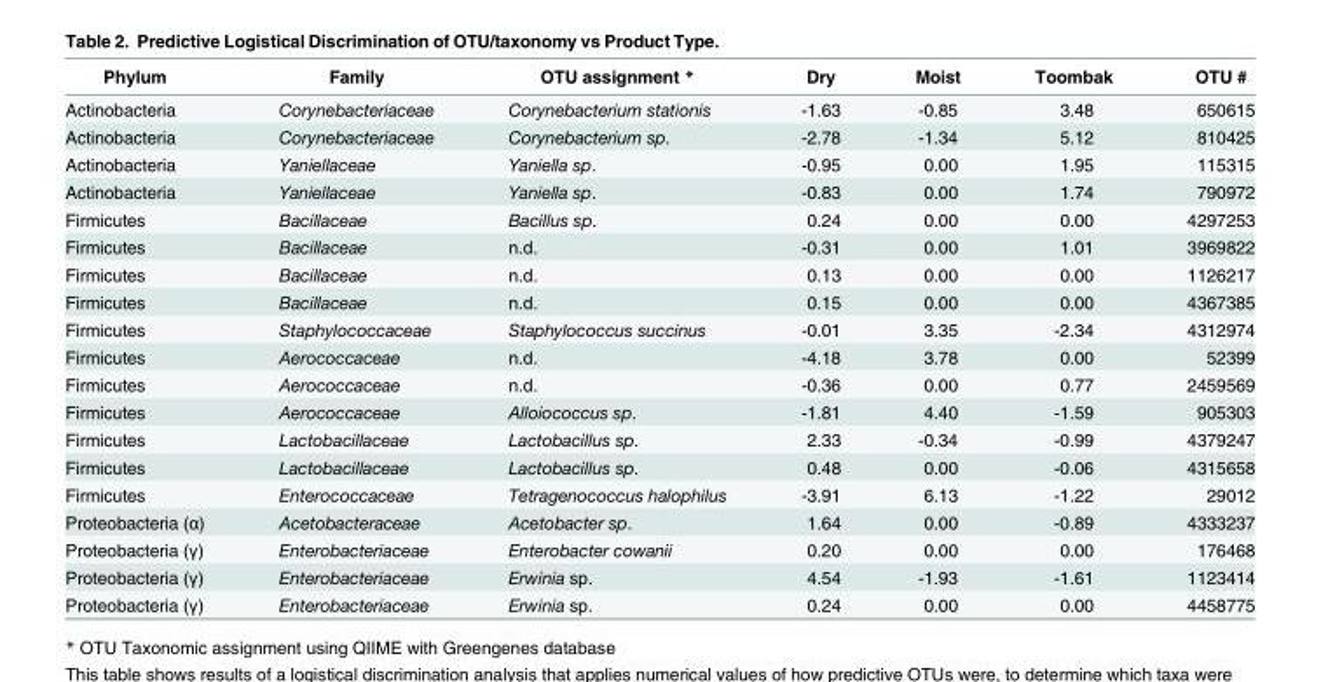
<table><thead><tr><td>Phylum</td><td>Family</td><td>OTU assignment *</td><td>Dry</td><td>Moist</td><td>Toombak</td><td>OTU #</td></tr></thead><tbody><tr><td>Actinobacteria</td><td>Corynebacteriaceae</td><td>Corynebacterium stationis</td><td>-1.63</td><td>-0.85</td><td>3.48</td><td>650615</td></tr><tr><td>Actinobacteria</td><td>Corynebacteriaceae</td><td>Corynebacterium sp.</td><td>-2.78</td><td>-1.34</td><td>5.12</td><td>810425</td></tr><tr><td>Actinobacteria</td><td>Yaniellaceae</td><td>Yaniella sp.</td><td>-0.95</td><td>0.00</td><td>1.95</td><td>115315</td></tr><tr><td>Actinobacteria</td><td>Yaniellaceae</td><td>Yaniella sp.</td><td>-0.83</td><td>0.00</td><td>1.74</td><td>790972</td></tr><tr><td>Firmicutes</td><td>Bacillaceae</td><td>Bacillus sp.</td><td>0.24</td><td>0.00</td><td>0.00</td><td>4297253</td></tr><tr><td>Firmicutes</td><td>Bacillaceae</td><td>n.d.</td><td>-0.31</td><td>0.00</td><td>1.01</td><td>3969822</td></tr><tr><td>Firmicutes</td><td>Bacillaceae</td><td>n.d.</td><td>0.13</td><td>0.00</td><td>0.00</td><td>1126217</td></tr><tr><td>Firmicutes</td><td>Bacillaceae</td><td>n.d.</td><td>0.15</td><td>0.00</td><td>0.00</td><td>4367385</td></tr><tr><td>Firmicutes</td><td>Staphylococcaceae</td><td>Staphylococcus succinus</td><td>-0.01</td><td>3.35</td><td>-2.34</td><td>4312974</td></tr><tr><td>Firmicutes</td><td>Aerococcaceae</td><td>n.d.</td><td>-4.18</td><td>3.78</td><td>0.00</td><td>52399</td></tr><tr><td>Firmicutes</td><td>Aerococcaceae</td><td>n.d.</td><td>-0.36</td><td>0.00</td><td>0.77</td><td>2459569</td></tr><tr><td>Firmicutes</td><td>Aerococcaceae</td><td>Alloiococcus sp.</td><td>-1.81</td><td>4.40</td><td>-1.59</td><td>905303</td></tr><tr><td>Firmicutes</td><td>Lactobacillaceae</td><td>Lactobacillus sp.</td><td>2.33</td><td>-0.34</td><td>-0.99</td><td>4379247</td></tr><tr><td>Firmicutes</td><td>Lactobacillaceae</td><td>Lactobacillus sp.</td><td>0.48</td><td>0.00</td><td>-0.06</td><td>4315658</td></tr><tr><td>Firmicutes</td><td>Enterococcaceae</td><td>Tetragenococcus halophilus</td><td>-3.91</td><td>6.13</td><td>-1.22</td><td>29012</td></tr><tr><td>Proteobacteria (α)</td><td>Acetobacteraceae</td><td>Acetobacter sp.</td><td>1.64</td><td>0.00</td><td>-0.89</td><td>4333237</td></tr><tr><td>Proteobacteria (γ)</td><td>Enterobacteriaceae</td><td>Enterobacter cowanii</td><td>0.20</td><td>0.00</td><td>0.00</td><td>176468</td></tr><tr><td>Proteobacteria (γ)</td><td>Enterobacteriaceae</td><td>Erwinia sp.</td><td>4.54</td><td>-1.93</td><td>-1.61</td><td>1123414</td></tr><tr><td>Proteobacteria (γ)</td><td>Enterobacteriaceae</td><td>Erwinia sp.</td><td>0.24</td><td>0.00</td><td>0.00</td><td>4458775</td></tr></tbody></table>